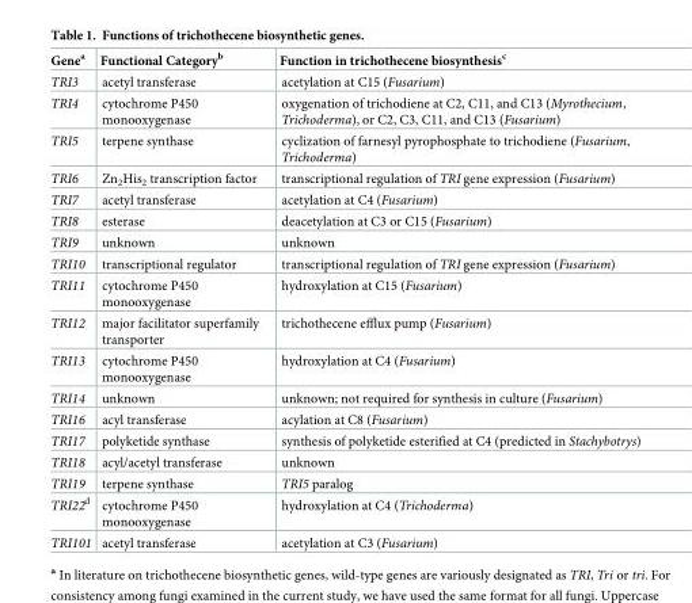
<table><thead><tr><td>Gene<sup>a</sup></td><td>Functional Category<sup>b</sup></td><td>Function in trichothecene biosynthesis<sup>c</sup></td></tr></thead><tbody><tr><td>TRI3</td><td>acetyl transferase</td><td>acetylation at C15 (Fusarium)</td></tr><tr><td>TRI4</td><td>cytochrome P450 monooxygenase</td><td>oxygenation of trichodiene at C2, C11, and C13 (Myrothecium, Trichoderma), or C2, C3, C11, and C13 (Fusarium)</td></tr><tr><td>TRI5</td><td>terpene synthase</td><td>cyclization of farnesyl pyrophosphate to trichodiene (Fusarium, Trichoderma)</td></tr><tr><td>TRI6</td><td>Zn<sub>2</sub>His<sub>2</sub> transcription factor</td><td>transcriptional regulation of TRI gene expression (Fusarium)</td></tr><tr><td>TRI7</td><td>acetyl transferase</td><td>acetylation at C4 (Fusarium)</td></tr><tr><td>TRI8</td><td>esterase</td><td>deacetylation at C3 or C15 (Fusarium)</td></tr><tr><td>TRI9</td><td>unknown</td><td>unknown</td></tr><tr><td>TRI10</td><td>transcriptional regulator</td><td>transcriptional regulation of TRI gene expression (Fusarium)</td></tr><tr><td>TRI11</td><td>cytochrome P450 monooxygenase</td><td>hydroxylation at C15 (Fusarium)</td></tr><tr><td>TRI12</td><td>major facilitator superfamily transporter</td><td>trichothecene efflux pump (Fusarium)</td></tr><tr><td>TRI13</td><td>cytochrome P450 monooxygenase</td><td>hydroxylation at C4 (Fusarium)</td></tr><tr><td>TRI14</td><td>unknown</td><td>unknown; not required for synthesis in culture (Fusarium)</td></tr><tr><td>TRI16</td><td>acyl transferase</td><td>acylation at C8 (Fusarium)</td></tr><tr><td>TRI17</td><td>polyketide synthase</td><td>synthesis of polyketide esterified at C4 (predicted in Stachybotrys)</td></tr><tr><td>TRI18</td><td>acyl/acetyl transferase</td><td>unknown</td></tr><tr><td>TRI19</td><td>terpene synthase</td><td>TRI5 paralog</td></tr><tr><td>TRI22<sup>d</sup></td><td>cytochrome P450 monooxygenase</td><td>hydroxylation at C4 (Trichoderma)</td></tr><tr><td>TRI101</td><td>acetyl transferase</td><td>acetylation at C3 (Fusarium)</td></tr></tbody></table>